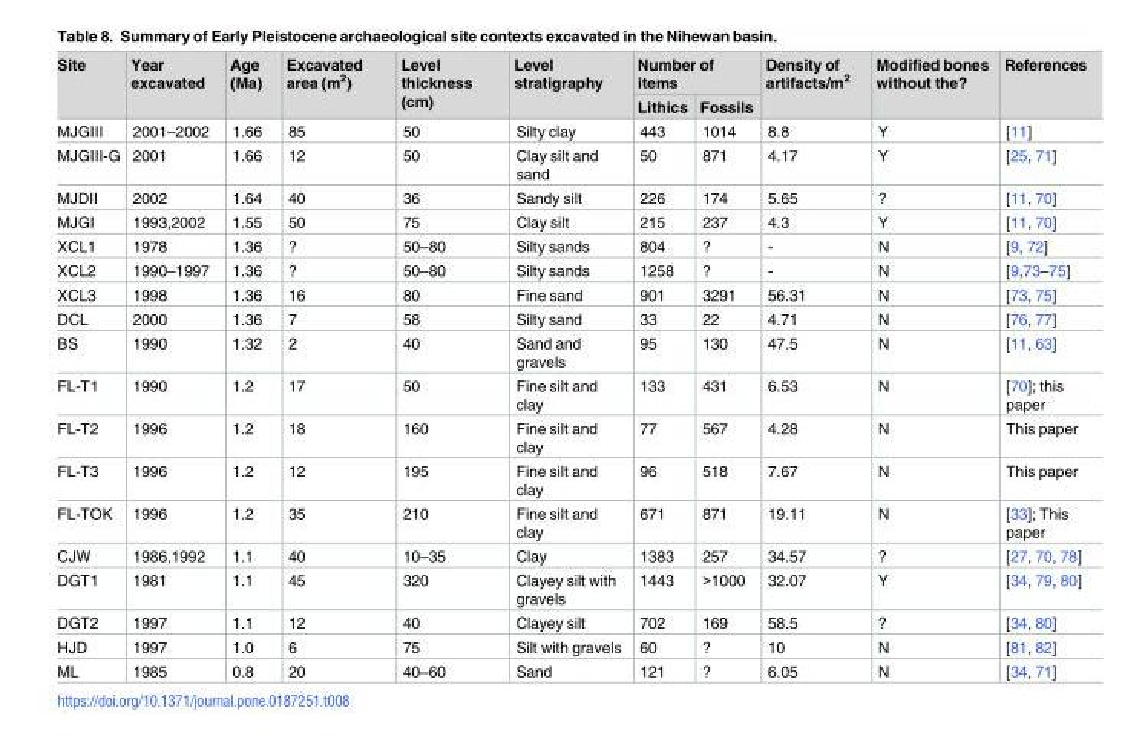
<table><thead><tr><td rowspan="2">Site</td><td rowspan="2">Year excavated</td><td rowspan="2">Age (Ma)</td><td rowspan="2">Excavated area (m<sup>2</sup>)</td><td rowspan="2">Level thickness (cm)</td><td rowspan="2">Level stratigraphy</td><td colspan="2">Number of items</td><td rowspan="2">Density of artifacts/m<sup>2</sup></td><td rowspan="2">Modified bones without the?</td><td rowspan="2">References</td></tr><tr><td>Lithics</td><td>Fossils</td></tr></thead><tbody><tr><td>MJGIII</td><td>2001–2002</td><td>1.66</td><td>85</td><td>50</td><td>Silty clay</td><td>443</td><td>1014</td><td>8.8</td><td>Y</td><td>[11]</td></tr><tr><td>MJGIII-G</td><td>2001</td><td>1.66</td><td>12</td><td>50</td><td>Clay silt and sand</td><td>50</td><td>871</td><td>4.17</td><td>Y</td><td>[25, 71]</td></tr><tr><td>MJDII</td><td>2002</td><td>1.64</td><td>40</td><td>36</td><td>Sandy silt</td><td>226</td><td>174</td><td>5.65</td><td>?</td><td>[11, 70]</td></tr><tr><td>MJGI</td><td>1993,2002</td><td>1.55</td><td>50</td><td>75</td><td>Clay silt</td><td>215</td><td>237</td><td>4.3</td><td>Y</td><td>[11, 70]</td></tr><tr><td>XCL1</td><td>1978</td><td>1.36</td><td>?</td><td>50–80</td><td>Silty sands</td><td>804</td><td>?</td><td>-</td><td>N</td><td>[9, 72]</td></tr><tr><td>XCL2</td><td>1990–1997</td><td>1.36</td><td>?</td><td>50–80</td><td>Silty sands</td><td>1258</td><td>?</td><td>-</td><td>N</td><td>[9,73–75]</td></tr><tr><td>XCL3</td><td>1998</td><td>1.36</td><td>16</td><td>80</td><td>Fine sand</td><td>901</td><td>3291</td><td>56.31</td><td>N</td><td>[73, 75]</td></tr><tr><td>DCL</td><td>2000</td><td>1.36</td><td>7</td><td>58</td><td>Silty sand</td><td>33</td><td>22</td><td>4.71</td><td>N</td><td>[76, 77]</td></tr><tr><td>BS</td><td>1990</td><td>1.32</td><td>2</td><td>40</td><td>Sand and gravels</td><td>95</td><td>130</td><td>47.5</td><td>N</td><td>[11, 63]</td></tr><tr><td>FL-T1</td><td>1990</td><td>1.2</td><td>17</td><td>50</td><td>Fine silt and clay</td><td>133</td><td>431</td><td>6.53</td><td>N</td><td>[70]; this paper</td></tr><tr><td>FL-T2</td><td>1996</td><td>1.2</td><td>18</td><td>160</td><td>Fine silt and clay</td><td>77</td><td>567</td><td>4.28</td><td>N</td><td>This paper</td></tr><tr><td>FL-T3</td><td>1996</td><td>1.2</td><td>12</td><td>195</td><td>Fine silt and clay</td><td>96</td><td>518</td><td>7.67</td><td>N</td><td>This paper</td></tr><tr><td>FL-TOK</td><td>1996</td><td>1.2</td><td>35</td><td>210</td><td>Fine silt and clay</td><td>671</td><td>871</td><td>19.11</td><td>N</td><td>[33]; This paper</td></tr><tr><td>CJW</td><td>1986,1992</td><td>1.1</td><td>40</td><td>10–35</td><td>Clay</td><td>1383</td><td>257</td><td>34.57</td><td>?</td><td>[27, 70, 78]</td></tr><tr><td>DGT1</td><td>1981</td><td>1.1</td><td>45</td><td>320</td><td>Clayey silt with gravels</td><td>1443</td><td>&gt;1000</td><td>32.07</td><td>Y</td><td>[34, 79, 80]</td></tr><tr><td>DGT2</td><td>1997</td><td>1.1</td><td>12</td><td>40</td><td>Clayey silt</td><td>702</td><td>169</td><td>58.5</td><td>?</td><td>[34, 80]</td></tr><tr><td>HJD</td><td>1997</td><td>1.0</td><td>6</td><td>75</td><td>Silt with gravels</td><td>60</td><td>?</td><td>10</td><td>N</td><td>[81, 82]</td></tr><tr><td>ML</td><td>1985</td><td>0.8</td><td>20</td><td>40–60</td><td>Sand</td><td>121</td><td>?</td><td>6.05</td><td>N</td><td>[34, 71]</td></tr></tbody></table>